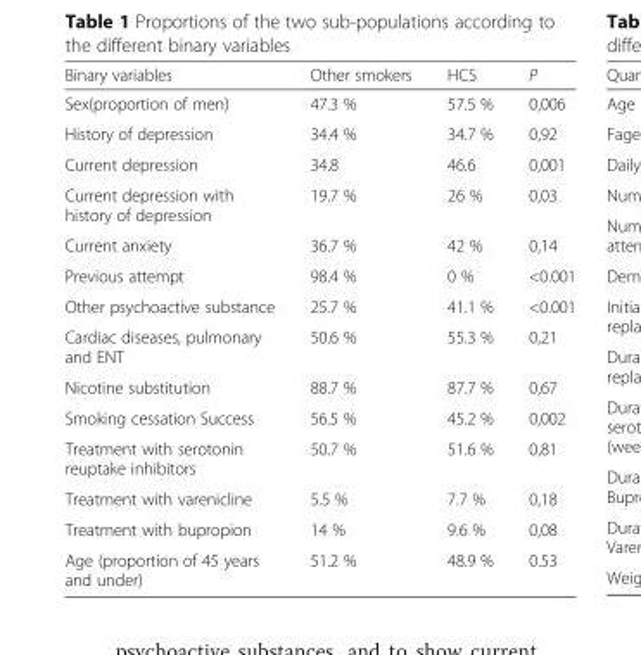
<table><thead><tr><td>Binary variables</td><td>Other smokers</td><td>HCS</td><td>P</td></tr></thead><tbody><tr><td>Sex(proportion of men)</td><td>47.3 %</td><td>57.5 %</td><td>0,006</td></tr><tr><td>History of depression</td><td>34.4 %</td><td>34.7 %</td><td>0,92</td></tr><tr><td>Current depression</td><td>34.8</td><td>46.6</td><td>0,001</td></tr><tr><td>Current depression with history of depression</td><td>19.7 %</td><td>26 %</td><td>0,03</td></tr><tr><td>Current anxiety</td><td>36.7 %</td><td>42 %</td><td>0,14</td></tr><tr><td>Previous attempt</td><td>98.4 %</td><td>0 %</td><td>&lt;0.001</td></tr><tr><td>Other psychoactive substance</td><td>25.7 %</td><td>41.1 %</td><td>&lt;0.001</td></tr><tr><td>Cardiac diseases, pulmonary and ENT</td><td>50.6 %</td><td>55.3 %</td><td>0,21</td></tr><tr><td>Nicotine substitution</td><td>88.7 %</td><td>87.7 %</td><td>0,67</td></tr><tr><td>Smoking cessation Success</td><td>56.5 %</td><td>45.2 %</td><td>0,002</td></tr><tr><td>Treatment with serotonin reuptake inhibitors</td><td>50.7 %</td><td>51.6 %</td><td>0,81</td></tr><tr><td>Treatment with varenicline</td><td>5.5 %</td><td>7.7 %</td><td>0,18</td></tr><tr><td>Treatment with bupropion</td><td>14 %</td><td>9.6 %</td><td>0,08</td></tr><tr><td>Age (proportion of 45 years and under)</td><td>51.2 %</td><td>48.9 %</td><td>0.53</td></tr></tbody></table>